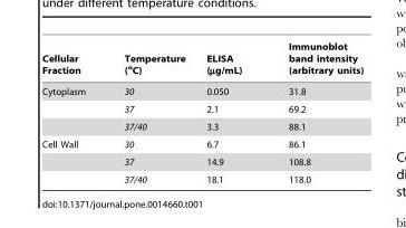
<table><thead><tr><td>Cellular Fraction</td><td>Temperature (<sup>o</sup>C)</td><td>ELISA (µg/mL)</td><td>Immunoblot band intensity (arbitrary units)</td></tr></thead><tbody><tr><td rowspan="3">Cytoplasm</td><td>30</td><td>0.050</td><td>31.8</td></tr><tr><td>37</td><td>2.1</td><td>69.2</td></tr><tr><td>37/40</td><td>3.3</td><td>88.1</td></tr><tr><td rowspan="3">Cell Wall</td><td>30</td><td>6.7</td><td>86.1</td></tr><tr><td>37</td><td>14.9</td><td>108.8</td></tr><tr><td>37/40</td><td>18.1</td><td>118.0</td></tr></tbody></table>